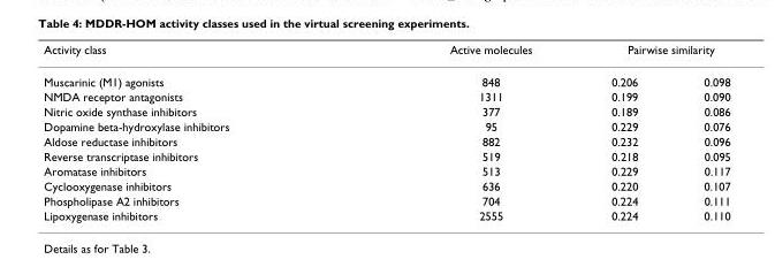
<table><thead><tr><td rowspan="2">Activity class Muscarinic (M1) agonists</td><td rowspan="2">Active molecules 848</td><td colspan="2">Pairwise similarity</td></tr><tr><td>0.206</td><td>0.098</td></tr></thead><tbody><tr><td>NMDA receptor antagonists</td><td>1311</td><td>0.199</td><td>0.090</td></tr><tr><td>Nitric oxide synthase inhibitors</td><td>377</td><td>0.189</td><td>0.086</td></tr><tr><td>Dopamine beta-hydroxylase inhibitors</td><td>95</td><td>0.229</td><td>0.076</td></tr><tr><td>Aldose reductase inhibitors</td><td>882</td><td>0.232</td><td>0.096</td></tr><tr><td>Reverse transcriptase inhibitors</td><td>519</td><td>0.218</td><td>0.095</td></tr><tr><td>Aromatase inhibitors</td><td>513</td><td>0.229</td><td>0.117</td></tr><tr><td>Cyclooxygenase inhibitors</td><td>636</td><td>0.220</td><td>0.107</td></tr><tr><td>Phospholipase A2 inhibitors</td><td>704</td><td>0.224</td><td>0.111</td></tr><tr><td>Lipoxygenase inhibitors</td><td>2555</td><td>0.224</td><td>0.110</td></tr></tbody></table>